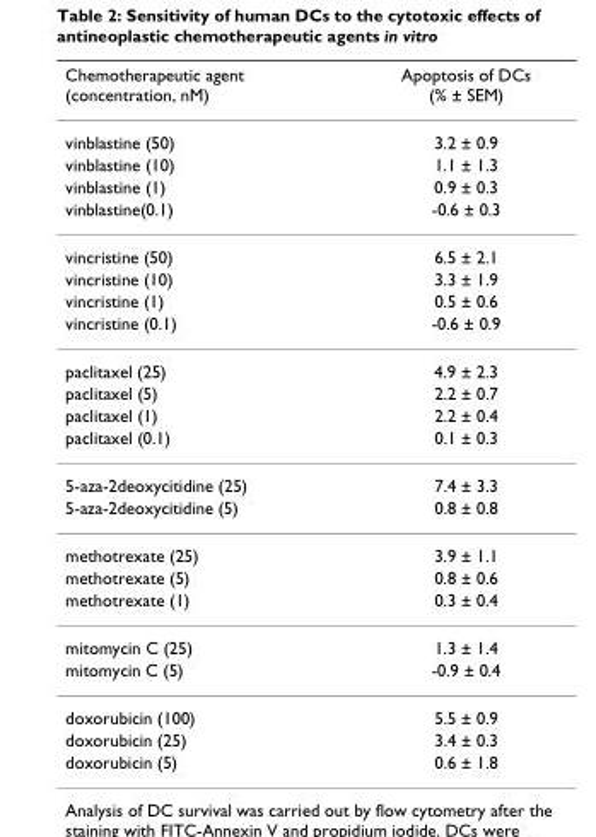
<table><thead><tr><td>Chemotherapeutic agent (concentration, nM)</td><td>Apoptosis of DCs (% ± SEM)</td></tr></thead><tbody><tr><td>vinblastine (50)</td><td>3.2 ± 0.9</td></tr><tr><td>vinblastine (10)</td><td>1.1 ± 1.3</td></tr><tr><td>vinblastine (1)</td><td>0.9 ± 0.3</td></tr><tr><td>vinblastine(0.1)</td><td>-0.6 ± 0.3</td></tr><tr><td>vincristine (50)</td><td>6.5 ± 2.1</td></tr><tr><td>vincristine (10)</td><td>3.3 ± 1.9</td></tr><tr><td>vincristine (1)</td><td>0.5 ± 0.6</td></tr><tr><td>vincristine (0.1)</td><td>-0.6 ± 0.9</td></tr><tr><td>paclitaxel (25)</td><td>4.9 ± 2.3</td></tr><tr><td>paclitaxel (5)</td><td>2.2 ± 0.7</td></tr><tr><td>paclitaxel (1)</td><td>2.2 ± 0.4</td></tr><tr><td>paclitaxel (0.1)</td><td>0.1 ± 0.3</td></tr><tr><td>5-aza-2deoxycitidine (25)</td><td>7.4 ± 3.3</td></tr><tr><td>5-aza-2deoxycitidine (5)</td><td>0.8 ± 0.8</td></tr><tr><td>methotrexate (25)</td><td>3.9 ± 1.1</td></tr><tr><td>methotrexate (5)</td><td>0.8 ± 0.6</td></tr><tr><td>methotrexate (1)</td><td>0.3 ± 0.4</td></tr><tr><td>mitomycin C (25)</td><td>1.3 ± 1.4</td></tr><tr><td>mitomycin C (5)</td><td>-0.9 ± 0.4</td></tr><tr><td>doxorubicin (100)</td><td>5.5 ± 0.9</td></tr><tr><td>doxorubicin (25)</td><td>3.4 ± 0.3</td></tr><tr><td>doxorubicin (5)</td><td>0.6 ± 1.8</td></tr></tbody></table>